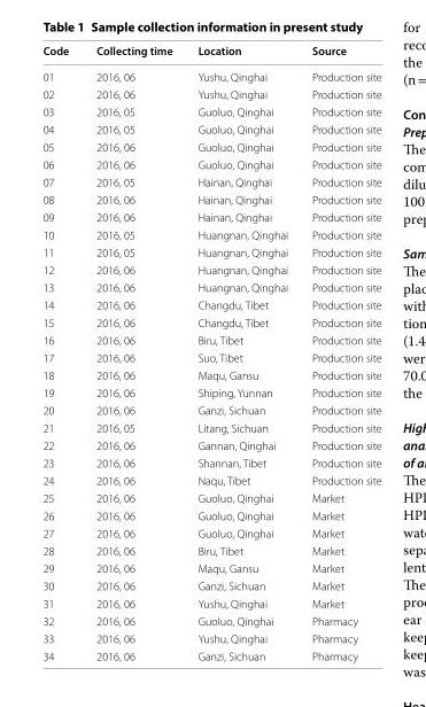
<table><thead><tr><td>Code</td><td>Collecting time</td><td>Location</td><td>Source</td></tr></thead><tbody><tr><td>01</td><td>2016, 06</td><td>Yushu, Qinghai</td><td>Production site</td></tr><tr><td>02</td><td>2016, 06</td><td>Yushu, Qinghai</td><td>Production site</td></tr><tr><td>03</td><td>2016, 05</td><td>Guoluo, Qinghai</td><td>Production site</td></tr><tr><td>04</td><td>2016, 05</td><td>Guoluo, Qinghai</td><td>Production site</td></tr><tr><td>05</td><td>2016, 06</td><td>Guoluo, Qinghai</td><td>Production site</td></tr><tr><td>06</td><td>2016, 06</td><td>Guoluo, Qinghai</td><td>Production site</td></tr><tr><td>07</td><td>2016, 05</td><td>Hainan, Qinghai</td><td>Production site</td></tr><tr><td>08</td><td>2016, 06</td><td>Hainan, Qinghai</td><td>Production site</td></tr><tr><td>09</td><td>2016, 06</td><td>Hainan, Qinghai</td><td>Production site</td></tr><tr><td>10</td><td>2016, 05</td><td>Huangnan, Qinghai</td><td>Production site</td></tr><tr><td>11</td><td>2016, 05</td><td>Huangnan, Qinghai</td><td>Production site</td></tr><tr><td>12</td><td>2016, 06</td><td>Huangnan, Qinghai</td><td>Production site</td></tr><tr><td>13</td><td>2016, 06</td><td>Huangnan, Qinghai</td><td>Production site</td></tr><tr><td>14</td><td>2016, 06</td><td>Changdu, Tibet</td><td>Production site</td></tr><tr><td>15</td><td>2016, 06</td><td>Changdu, Tibet</td><td>Production site</td></tr><tr><td>16</td><td>2016, 06</td><td>Biru, Tibet</td><td>Production site</td></tr><tr><td>17</td><td>2016, 06</td><td>Suo, Tibet</td><td>Production site</td></tr><tr><td>18</td><td>2016, 06</td><td>Maqu, Gansu</td><td>Production site</td></tr><tr><td>19</td><td>2016, 06</td><td>Shiping, Yunnan</td><td>Production site</td></tr><tr><td>20</td><td>2016, 06</td><td>Ganzi, Sichuan</td><td>Production site</td></tr><tr><td>21</td><td>2016, 05</td><td>Litang, Sichuan</td><td>Production site</td></tr><tr><td>22</td><td>2016, 06</td><td>Gannan, Qinghai</td><td>Production site</td></tr><tr><td>23</td><td>2016, 06</td><td>Shannan, Tibet</td><td>Production site</td></tr><tr><td>24</td><td>2016, 06</td><td>Naqu, Tibet</td><td>Production site</td></tr><tr><td>25</td><td>2016, 06</td><td>Guoluo, Qinghai</td><td>Market</td></tr><tr><td>26</td><td>2016, 06</td><td>Guoluo, Qinghai</td><td>Market</td></tr><tr><td>27</td><td>2016, 06</td><td>Guoluo, Qinghai</td><td>Market</td></tr><tr><td>28</td><td>2016, 06</td><td>Biru, Tibet</td><td>Market</td></tr><tr><td>29</td><td>2016, 06</td><td>Maqu, Gansu</td><td>Market</td></tr><tr><td>30</td><td>2016, 06</td><td>Ganzi, Sichuan</td><td>Market</td></tr><tr><td>31</td><td>2016, 06</td><td>Yushu, Qinghai</td><td>Market</td></tr><tr><td>32</td><td>2016, 06</td><td>Guoluo, Qinghai</td><td>Pharmacy</td></tr><tr><td>33</td><td>2016, 06</td><td>Yushu, Qinghai</td><td>Pharmacy</td></tr><tr><td>34</td><td>2016, 06</td><td>Ganzi, Sichuan</td><td>Pharmacy</td></tr></tbody></table>